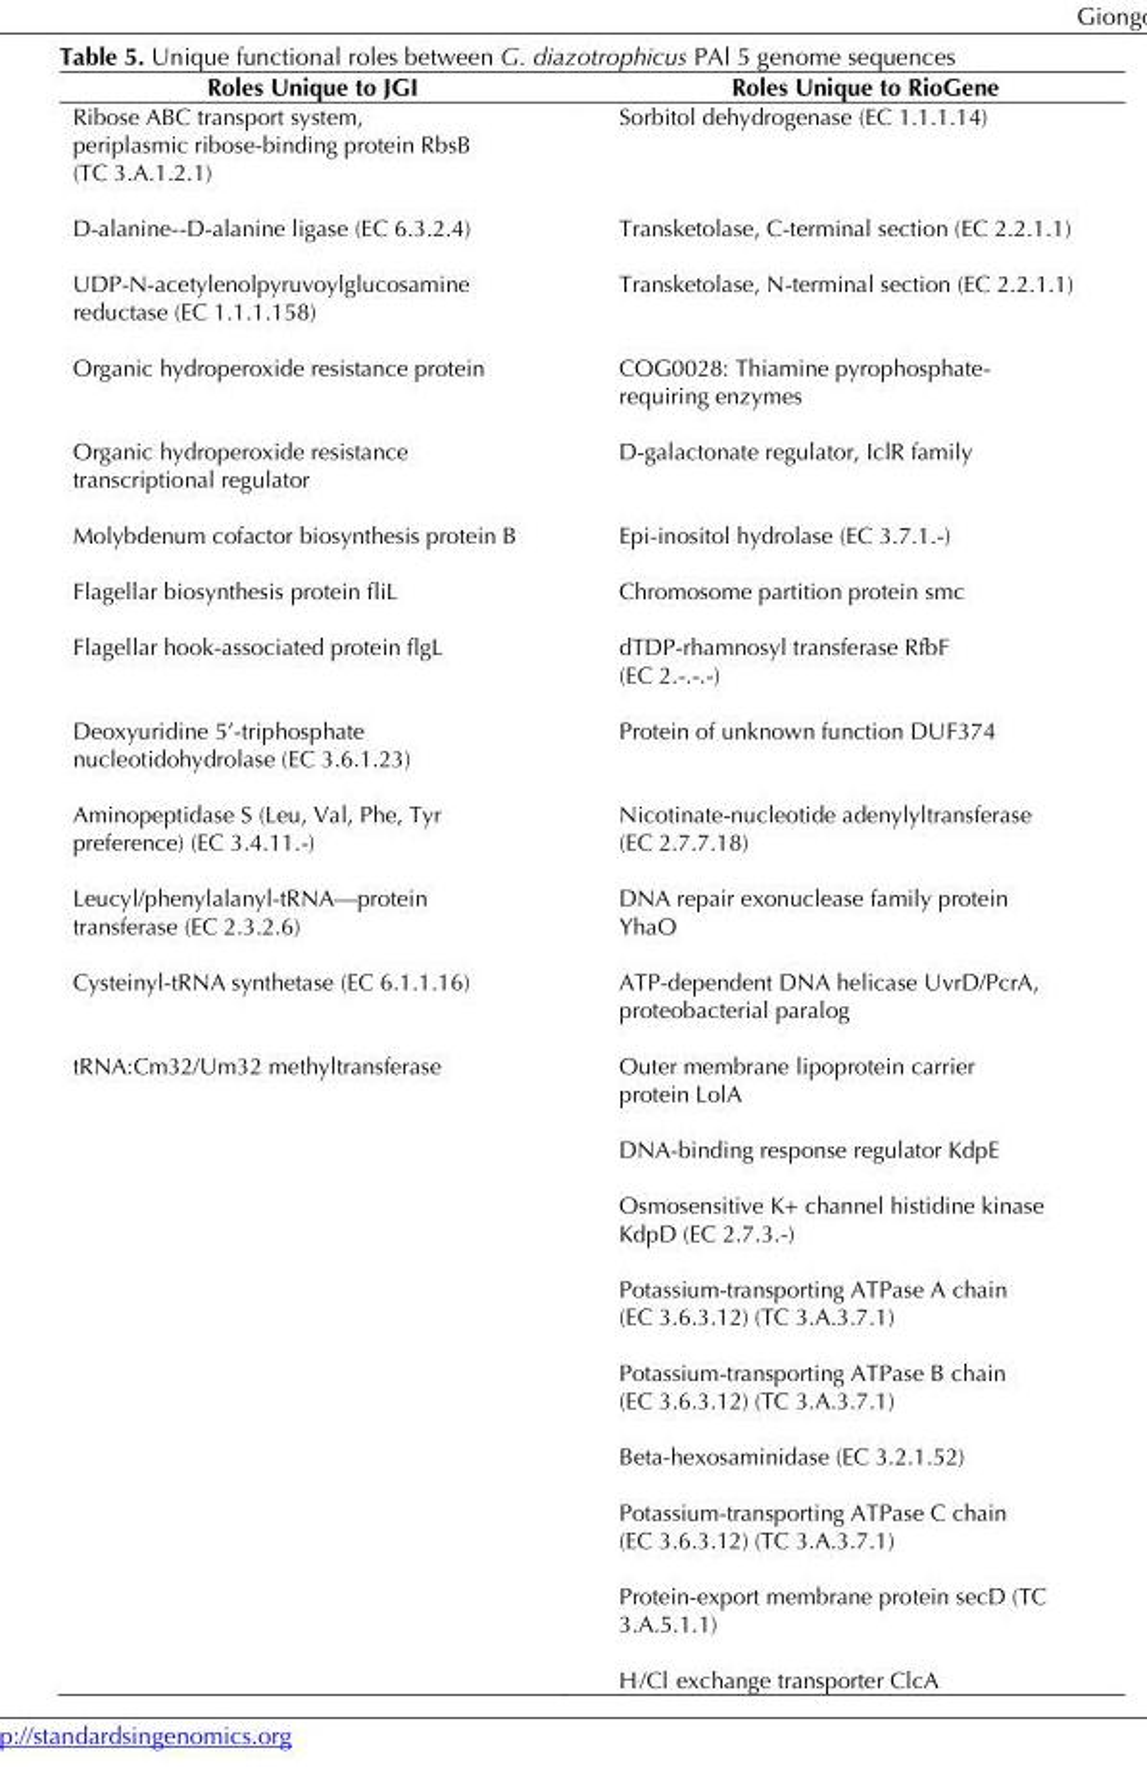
<table><thead><tr><td>Roles Unique to JGI</td><td>Roles Unique to RioGene</td></tr></thead><tbody><tr><td>Ribose ABC transport system, periplasmic ribose-binding protein RbsB (TC 3.A.1.2.1)</td><td>Sorbitol dehydrogenase (EC 1.1.1.14)</td></tr><tr><td>D-alanine--D-alanine ligase (EC 6.3.2.4)</td><td>Transketolase, C-terminal section (EC 2.2.1.1)</td></tr><tr><td>UDP-N-acetylenolpyruvoylglucosamine reductase (EC 1.1.1.158)</td><td>Transketolase, N-terminal section (EC 2.2.1.1)</td></tr><tr><td>Organic hydroperoxide resistance protein</td><td>COG0028: Thiamine pyrophosphate- requiring enzymes</td></tr><tr><td>Organic hydroperoxide resistance transcriptional regulator</td><td>D-galactonate regulator, IclR family</td></tr><tr><td>Molybdenum cofactor biosynthesis protein B</td><td>Epi-inositol hydrolase (EC 3.7.1.-)</td></tr><tr><td>Flagellar biosynthesis protein fliL</td><td>Chromosome partition protein smc</td></tr><tr><td>Flagellar hook-associated protein flgL</td><td>dTDP-rhamnosyl transferase RfbF (EC 2.-.-.-)</td></tr><tr><td>Deoxyuridine 5’-triphosphate nucleotidohydrolase (EC 3.6.1.23)</td><td>Protein of unknown function DUF374</td></tr><tr><td>Aminopeptidase S (Leu, Val, Phe, Tyr preference) (EC 3.4.11.-)</td><td>Nicotinate-nucleotide adenylyltransferase (EC 2.7.7.18)</td></tr><tr><td>Leucyl/phenylalanyl-tRNA—protein transferase (EC 2.3.2.6)</td><td>DNA repair exonuclease family protein YhaO</td></tr><tr><td>Cysteinyl-tRNA synthetase (EC 6.1.1.16)</td><td>ATP-dependent DNA helicase UvrD/PcrA, proteobacterial paralog</td></tr><tr><td rowspan="9">tRNA:Cm32/Um32 methyltransferase</td><td>Outer membrane lipoprotein carrier protein LolA</td></tr><tr><td>DNA-binding response regulator KdpE</td></tr><tr><td>Osmosensitive K+ channel histidine kinase KdpD (EC 2.7.3.-)</td></tr><tr><td>Potassium-transporting ATPase A chain (EC 3.6.3.12) (TC 3.A.3.7.1)</td></tr><tr><td>Potassium-transporting ATPase B chain (EC 3.6.3.12) (TC 3.A.3.7.1)</td></tr><tr><td>Beta-hexosaminidase (EC 3.2.1.52)</td></tr><tr><td>Potassium-transporting ATPase C chain (EC 3.6.3.12) (TC 3.A.3.7.1)</td></tr><tr><td>Protein-export membrane protein secD (TC 3.A.5.1.1)</td></tr><tr><td>H <sup>+</sup>/Cl <sup>-</sup> exchange transporter ClcA</td></tr></tbody></table>